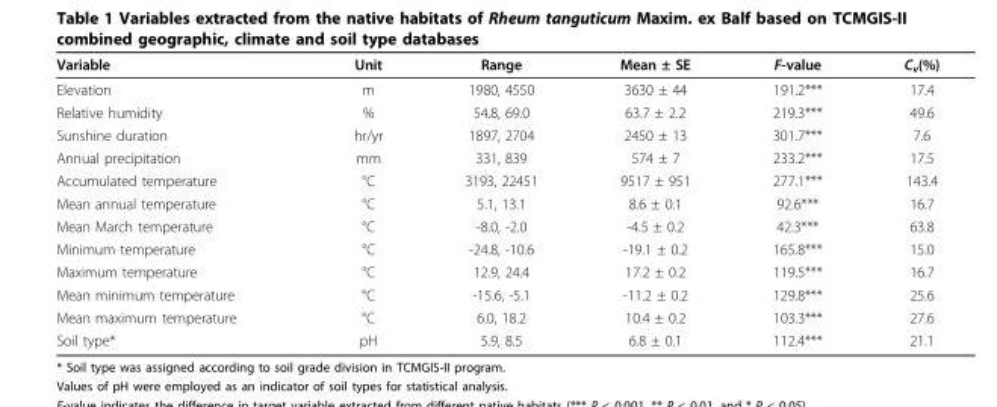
<table><thead><tr><td>Variable</td><td>Unit</td><td>Range</td><td>Mean ± SE</td><td>F-value</td><td>C<sub>v</sub>(%)</td></tr></thead><tbody><tr><td>Elevation</td><td>m</td><td>1980, 4550</td><td>3630 ± 44</td><td>191.2***</td><td>17.4</td></tr><tr><td>Relative humidity</td><td>%</td><td>54.8, 69.0</td><td>63.7 ± 2.2</td><td>219.3***</td><td>49.6</td></tr><tr><td>Sunshine duration</td><td>hr/yr</td><td>1897, 2704</td><td>2450 ± 13</td><td>301.7***</td><td>7.6</td></tr><tr><td>Annual precipitation</td><td>mm</td><td>331, 839</td><td>574 ± 7</td><td>233.2***</td><td>17.5</td></tr><tr><td>Accumulated temperature</td><td>°C</td><td>3193, 22451</td><td>9517 ± 951</td><td>277.1***</td><td>143.4</td></tr><tr><td>Mean annual temperature</td><td>°C</td><td>5.1, 13.1</td><td>8.6 ± 0.1</td><td>92.6***</td><td>16.7</td></tr><tr><td>Mean March temperature</td><td>°C</td><td>-8.0, -2.0</td><td>-4.5 ± 0.2</td><td>42.3***</td><td>63.8</td></tr><tr><td>Minimum temperature</td><td>°C</td><td>-24.8, -10.6</td><td>-19.1 ± 0.2</td><td>165.8***</td><td>15.0</td></tr><tr><td>Maximum temperature</td><td>°C</td><td>12.9, 24.4</td><td>17.2 ± 0.2</td><td>119.5***</td><td>16.7</td></tr><tr><td>Mean minimum temperature</td><td>°C</td><td>-15.6, -5.1</td><td>-11.2 ± 0.2</td><td>129.8***</td><td>25.6</td></tr><tr><td>Mean maximum temperature</td><td>°C</td><td>6.0, 18.2</td><td>10.4 ± 0.2</td><td>103.3***</td><td>27.6</td></tr><tr><td>Soil type*</td><td>pH</td><td>5.9, 8.5</td><td>6.8 ± 0.1</td><td>112.4***</td><td>21.1</td></tr></tbody></table>